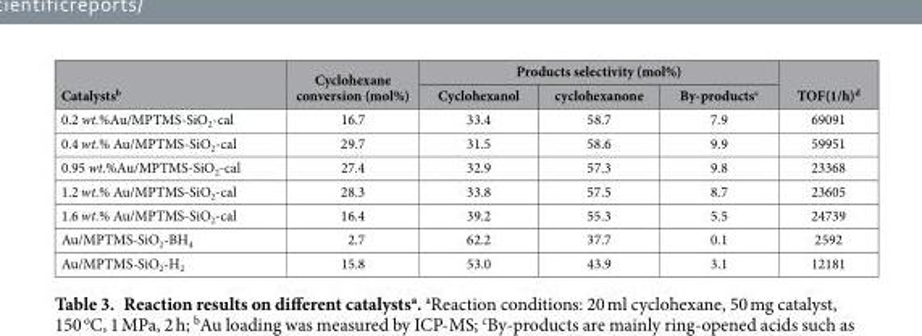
<table><thead><tr><td rowspan="2">Catalysts<sup>b</sup></td><td rowspan="2">Cyclohexane conversion (mol%)</td><td colspan="3">Products selectivity (mol%)</td><td rowspan="2">TOF(1/h)<sup>d</sup></td></tr><tr><td>Cyclohexanol</td><td>cyclohexanone</td><td>By-products<sup>c</sup></td></tr></thead><tbody><tr><td>0.2 wt.%Au/MPTMS-SiO<sub>2</sub>-cal</td><td>16.7</td><td>33.4</td><td>58.7</td><td>7.9</td><td>69091</td></tr><tr><td>0.4 wt.% Au/MPTMS-SiO<sub>2</sub>-cal</td><td>29.7</td><td>31.5</td><td>58.6</td><td>9.9</td><td>59951</td></tr><tr><td>0.95 wt.%Au/MPTMS-SiO<sub>2</sub>-cal</td><td>27.4</td><td>32.9</td><td>57.3</td><td>9.8</td><td>23368</td></tr><tr><td>1.2 wt.% Au/MPTMS-SiO<sub>2</sub>-cal</td><td>28.3</td><td>33.8</td><td>57.5</td><td>8.7</td><td>23605</td></tr><tr><td>1.6 wt.% Au/MPTMS-SiO<sub>2</sub>-cal</td><td>16.4</td><td>39.2</td><td>55.3</td><td>5.5</td><td>24739</td></tr><tr><td>Au/MPTMS-SiO<sub>2</sub>-BH<sub>4</sub></td><td>2.7</td><td>62.2</td><td>37.7</td><td>0.1</td><td>2592</td></tr><tr><td>Au/MPTMS-SiO<sub>2</sub>-H<sub>2</sub></td><td>15.8</td><td>53.0</td><td>43.9</td><td>3.1</td><td>12181</td></tr></tbody></table>